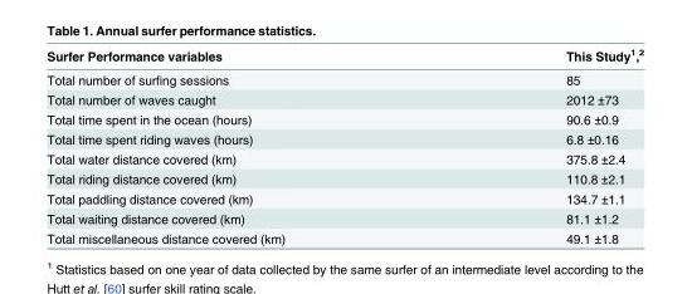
<table><thead><tr><td>Surfer Performance variables</td><td>This Study<sup>1</sup>,<sup>2</sup></td></tr></thead><tbody><tr><td>Total number of surfing sessions</td><td>85</td></tr><tr><td>Total number of waves caught</td><td>2012 ±73</td></tr><tr><td>Total time spent in the ocean (hours)</td><td>90.6 ±0.9</td></tr><tr><td>Total time spent riding waves (hours)</td><td>6.8 ±0.16</td></tr><tr><td>Total water distance covered (km)</td><td>375.8 ±2.4</td></tr><tr><td>Total riding distance covered (km)</td><td>110.8 ±2.1</td></tr><tr><td>Total paddling distance covered (km)</td><td>134.7 ±1.1</td></tr><tr><td>Total waiting distance covered (km)</td><td>81.1 ±1.2</td></tr><tr><td>Total miscellaneous distance covered (km)</td><td>49.1 ±1.8</td></tr></tbody></table>